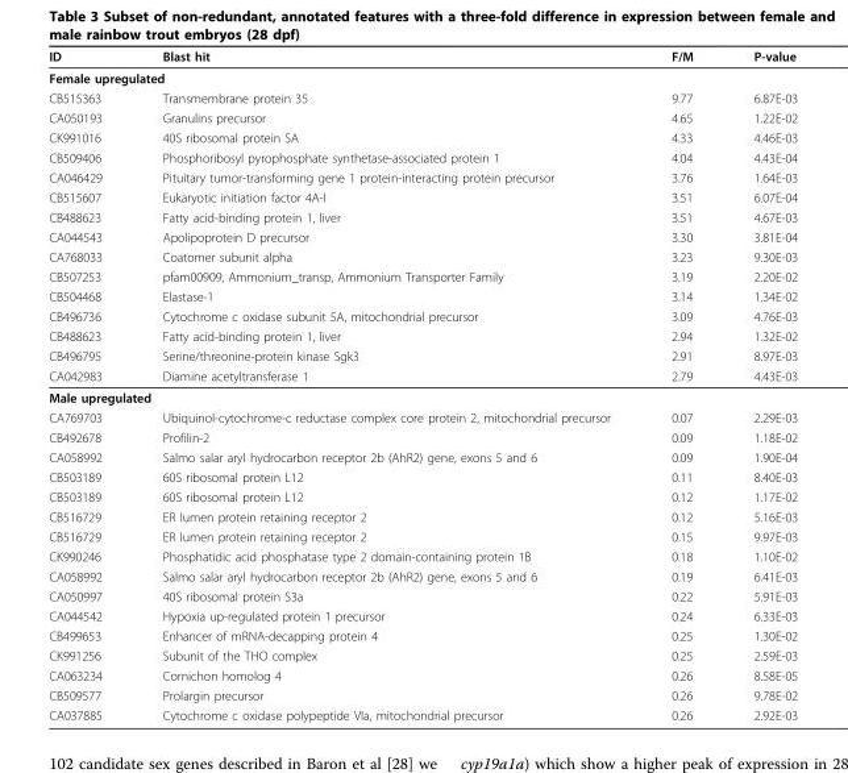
<table><thead><tr><td>ID</td><td>Blast hit</td><td>F/M</td><td>P-value</td></tr></thead><tbody><tr><td colspan="4">Female upregulated</td></tr><tr><td>CB515363</td><td>Transmembrane protein 35</td><td>9.77</td><td>6.87E-03</td></tr><tr><td>CA050193</td><td>Granulins precursor</td><td>4.65</td><td>1.22E-02</td></tr><tr><td>CK991016</td><td>40S ribosomal protein SA</td><td>4.33</td><td>4.46E-03</td></tr><tr><td>CB509406</td><td>Phosphoribosyl pyrophosphate synthetase-associated protein 1</td><td>4.04</td><td>4.43E-04</td></tr><tr><td>CA046429</td><td>Pituitary tumor-transforming gene 1 protein-interacting protein precursor</td><td>3.76</td><td>1.64E-03</td></tr><tr><td>CB515607</td><td>Eukaryotic initiation factor 4A-I</td><td>3.51</td><td>6.07E-04</td></tr><tr><td>CB488623</td><td>Fatty acid-binding protein 1, liver</td><td>3.51</td><td>4.67E-03</td></tr><tr><td>CA044543</td><td>Apolipoprotein D precursor</td><td>3.30</td><td>3.81E-04</td></tr><tr><td>CA768033</td><td>Coatomer subunit alpha</td><td>3.23</td><td>9.30E-03</td></tr><tr><td>CB507253</td><td>pfam00909, Ammonium_transp, Ammonium Transporter Family</td><td>3.19</td><td>2.20E-02</td></tr><tr><td>CB504468</td><td>Elastase-1</td><td>3.14</td><td>1.34E-02</td></tr><tr><td>CB496736</td><td>Cytochrome c oxidase subunit 5A, mitochondrial precursor</td><td>3.09</td><td>4.76E-03</td></tr><tr><td>CB488623</td><td>Fatty acid-binding protein 1, liver</td><td>2.94</td><td>1.32E-02</td></tr><tr><td>CB496795</td><td>Serine/threonine-protein kinase Sgk3</td><td>2.91</td><td>8.97E-03</td></tr><tr><td>CA042983</td><td>Diamine acetyltransferase 1</td><td>2.79</td><td>4.43E-03</td></tr><tr><td colspan="4">Male upregulated</td></tr><tr><td>CA769703</td><td>Ubiquinol-cytochrome-c reductase complex core protein 2, mitochondrial precursor</td><td>0.07</td><td>2.29E-03</td></tr><tr><td>CB492678</td><td>Profilin-2</td><td>0.09</td><td>1.18E-02</td></tr><tr><td>CA058992</td><td>Salmo salar aryl hydrocarbon receptor 2b (AhR2) gene, exons 5 and 6</td><td>0.09</td><td>1.90E-04</td></tr><tr><td>CB503189</td><td>60S ribosomal protein L12</td><td>0.11</td><td>8.40E-03</td></tr><tr><td>CB503189</td><td>60S ribosomal protein L12</td><td>0.12</td><td>1.17E-02</td></tr><tr><td>CB516729</td><td>ER lumen protein retaining receptor 2</td><td>0.12</td><td>5.16E-03</td></tr><tr><td>CB516729</td><td>ER lumen protein retaining receptor 2</td><td>0.15</td><td>9.97E-03</td></tr><tr><td>CK990246</td><td>Phosphatidic acid phosphatase type 2 domain-containing protein 1B</td><td>0.18</td><td>1.10E-02</td></tr><tr><td>CA058992</td><td>Salmo salar aryl hydrocarbon receptor 2b (AhR2) gene, exons 5 and 6</td><td>0.19</td><td>6.41E-03</td></tr><tr><td>CA050997</td><td>40S ribosomal protein S3a</td><td>0.22</td><td>5.91E-03</td></tr><tr><td>CA044542</td><td>Hypoxia up-regulated protein 1 precursor</td><td>0.24</td><td>6.33E-03</td></tr><tr><td>CB499653</td><td>Enhancer of mRNA-decapping protein 4</td><td>0.25</td><td>1.30E-02</td></tr><tr><td>CK991256</td><td>Subunit of the THO complex</td><td>0.25</td><td>2.59E-03</td></tr><tr><td>CA063234</td><td>Cornichon homolog 4</td><td>0.26</td><td>8.58E-05</td></tr><tr><td>CB509577</td><td>Prolargin precursor</td><td>0.26</td><td>9.78E-02</td></tr><tr><td>CA037885</td><td>Cytochrome c oxidase polypeptide VIa, mitochondrial precursor</td><td>0.26</td><td>2.92E-03</td></tr></tbody></table>